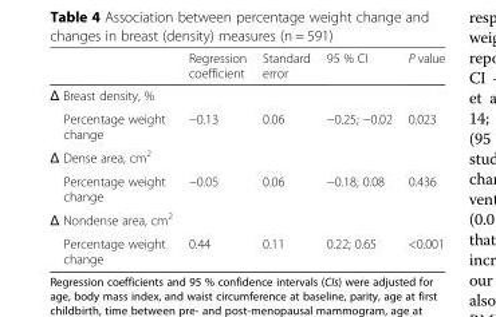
<table><thead><tr><td></td><td>Regression coefficient</td><td>Standard error</td><td>95 % CI</td><td>P value</td></tr></thead><tbody><tr><td colspan="5">Δ Breast density, %</td></tr><tr><td>Percentage weight change</td><td>−0.13</td><td>0.06</td><td>−0.25; −0.02</td><td>0.023</td></tr><tr><td colspan="5">Δ Dense area, cm<sup>2</sup></td></tr><tr><td>Percentage weight change</td><td>−0.05</td><td>0.06</td><td>−0.18; 0.08</td><td>0.436</td></tr><tr><td colspan="5">Δ Nondense area, cm<sup>2</sup></td></tr><tr><td>Percentage weight change</td><td>0.44</td><td>0.11</td><td>0.22; 0.65</td><td>&lt;0.001</td></tr></tbody></table>